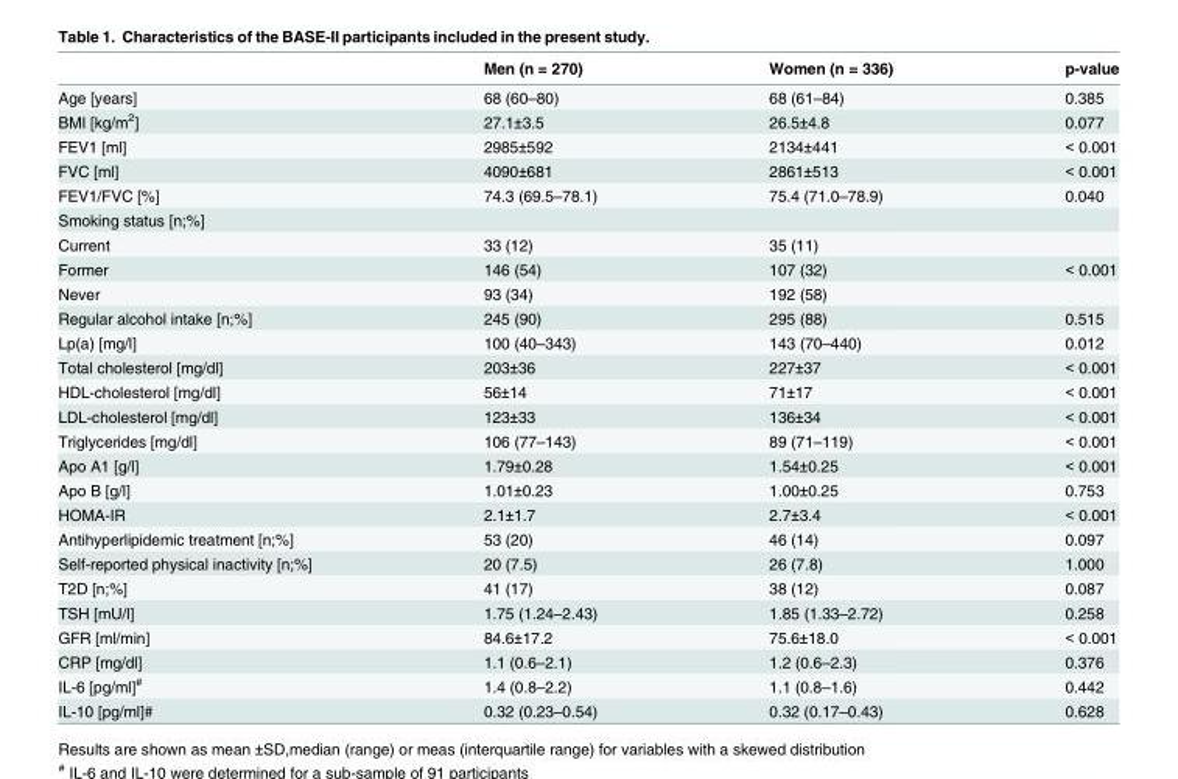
<table><thead><tr><td></td><td>Men (n = 270)</td><td>Women (n = 336)</td><td>p-value</td></tr></thead><tbody><tr><td>Age [years]</td><td>68 (60–80)</td><td>68 (61–84)</td><td>0.385</td></tr><tr><td>BMI [kg/m<sup>2</sup>]</td><td>27.1±3.5</td><td>26.5±4.8</td><td>0.077</td></tr><tr><td>FEV1 [ml]</td><td>2985±592</td><td>2134±441</td><td>&lt; 0.001</td></tr><tr><td>FVC [ml]</td><td>4090±681</td><td>2861±513</td><td>&lt; 0.001</td></tr><tr><td>FEV1/FVC [%]</td><td>74.3 (69.5–78.1)</td><td>75.4 (71.0–78.9)</td><td>0.040</td></tr><tr><td colspan="4">Smoking status [n;%]</td></tr><tr><td>Current</td><td>33 (12)</td><td>35 (11)</td><td></td></tr><tr><td>Former</td><td>146 (54)</td><td>107 (32)</td><td>&lt; 0.001</td></tr><tr><td>Never</td><td>93 (34)</td><td>192 (58)</td><td></td></tr><tr><td>Regular alcohol intake [n;%]</td><td>245 (90)</td><td>295 (88)</td><td>0.515</td></tr><tr><td>Lp(a) [mg/l]</td><td>100 (40–343)</td><td>143 (70–440)</td><td>0.012</td></tr><tr><td>Total cholesterol [mg/dl]</td><td>203±36</td><td>227±37</td><td>&lt; 0.001</td></tr><tr><td>HDL-cholesterol [mg/dl]</td><td>56±14</td><td>71±17</td><td>&lt; 0.001</td></tr><tr><td>LDL-cholesterol [mg/dl]</td><td>123±33</td><td>136±34</td><td>&lt; 0.001</td></tr><tr><td>Triglycerides [mg/dl]</td><td>106 (77–143)</td><td>89 (71–119)</td><td>&lt; 0.001</td></tr><tr><td>Apo A1 [g/l]</td><td>1.79±0.28</td><td>1.54±0.25</td><td>&lt; 0.001</td></tr><tr><td>Apo B [g/l]</td><td>1.01±0.23</td><td>1.00±0.25</td><td>0.753</td></tr><tr><td>HOMA-IR</td><td>2.1±1.7</td><td>2.7±3.4</td><td>&lt; 0.001</td></tr><tr><td>Antihyperlipidemic treatment [n;%]</td><td>53 (20)</td><td>46 (14)</td><td>0.097</td></tr><tr><td>Self-reported physical inactivity [n;%]</td><td>20 (7.5)</td><td>26 (7.8)</td><td>1.000</td></tr><tr><td>T2D [n;%]</td><td>41 (17)</td><td>38 (12)</td><td>0.087</td></tr><tr><td>TSH [mU/l]</td><td>1.75 (1.24–2.43)</td><td>1.85 (1.33–2.72)</td><td>0.258</td></tr><tr><td>GFR [ml/min]</td><td>84.6±17.2</td><td>75.6±18.0</td><td>&lt; 0.001</td></tr><tr><td>CRP [mg/dl]</td><td>1.1 (0.6–2.1)</td><td>1.2 (0.6–2.3)</td><td>0.376</td></tr><tr><td>IL-6 [pg/ml]<sup>#</sup></td><td>1.4 (0.8–2.2)</td><td>1.1 (0.8–1.6)</td><td>0.442</td></tr><tr><td>IL-10 [pg/ml]#</td><td>0.32 (0.23–0.54)</td><td>0.32 (0.17–0.43)</td><td>0.628</td></tr></tbody></table>